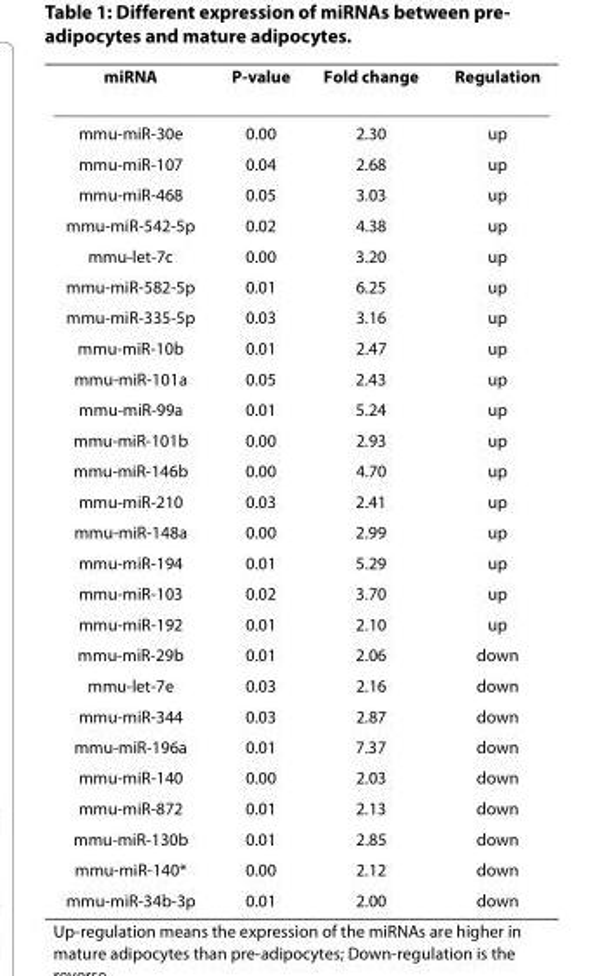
<table><thead><tr><td>miRNA</td><td>P-value</td><td>Fold change</td><td>Regulation</td></tr></thead><tbody><tr><td>mmu-miR-30e</td><td>0.00</td><td>2.30</td><td>up</td></tr><tr><td>mmu-miR-107</td><td>0.04</td><td>2.68</td><td>up</td></tr><tr><td>mmu-miR-468</td><td>0.05</td><td>3.03</td><td>up</td></tr><tr><td>mmu-miR-542-5p</td><td>0.02</td><td>4.38</td><td>up</td></tr><tr><td>mmu-let-7c</td><td>0.00</td><td>3.20</td><td>up</td></tr><tr><td>mmu-miR-582-5p</td><td>0.01</td><td>6.25</td><td>up</td></tr><tr><td>mmu-miR-335-5p</td><td>0.03</td><td>3.16</td><td>up</td></tr><tr><td>mmu-miR-10b</td><td>0.01</td><td>2.47</td><td>up</td></tr><tr><td>mmu-miR-101a</td><td>0.05</td><td>2.43</td><td>up</td></tr><tr><td>mmu-miR-99a</td><td>0.01</td><td>5.24</td><td>up</td></tr><tr><td>mmu-miR-101b</td><td>0.00</td><td>2.93</td><td>up</td></tr><tr><td>mmu-miR-146b</td><td>0.00</td><td>4.70</td><td>up</td></tr><tr><td>mmu-miR-210</td><td>0.03</td><td>2.41</td><td>up</td></tr><tr><td>mmu-miR-148a</td><td>0.00</td><td>2.99</td><td>up</td></tr><tr><td>mmu-miR-194</td><td>0.01</td><td>5.29</td><td>up</td></tr><tr><td>mmu-miR-103</td><td>0.02</td><td>3.70</td><td>up</td></tr><tr><td>mmu-miR-192</td><td>0.01</td><td>2.10</td><td>up</td></tr><tr><td>mmu-miR-29b</td><td>0.01</td><td>2.06</td><td>down</td></tr><tr><td>mmu-let-7e</td><td>0.03</td><td>2.16</td><td>down</td></tr><tr><td>mmu-miR-344</td><td>0.03</td><td>2.87</td><td>down</td></tr><tr><td>mmu-miR-196a</td><td>0.01</td><td>7.37</td><td>down</td></tr><tr><td>mmu-miR-140</td><td>0.00</td><td>2.03</td><td>down</td></tr><tr><td>mmu-miR-872</td><td>0.01</td><td>2.13</td><td>down</td></tr><tr><td>mmu-miR-130b</td><td>0.01</td><td>2.85</td><td>down</td></tr><tr><td>mmu-miR-140*</td><td>0.00</td><td>2.12</td><td>down</td></tr><tr><td>mmu-miR-34b-3p</td><td>0.01</td><td>2.00</td><td>down</td></tr></tbody></table>